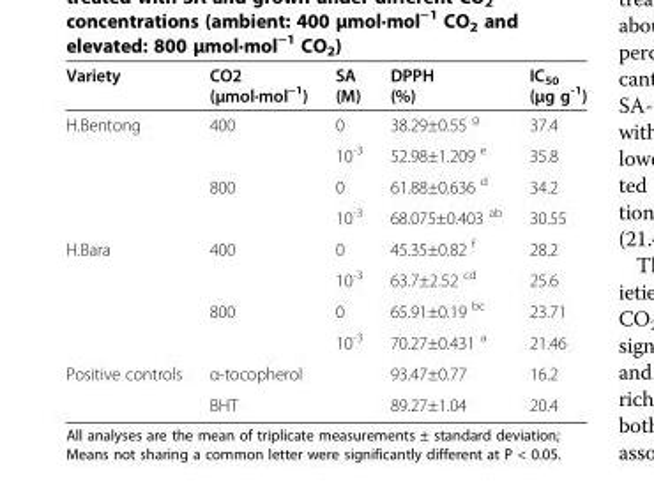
<table><thead><tr><td>Variety</td><td>CO2 (μmol·mol<sup>−1</sup>)</td><td>SA (M)</td><td>DPPH (%)</td><td>IC<sub>50</sub> (μg g<sup>-1</sup>)</td></tr></thead><tbody><tr><td rowspan="4">H.Bentong</td><td>400</td><td>0</td><td>38.29±0.55 <sup>g</sup></td><td>37.4</td></tr><tr><td></td><td>10<sup>-3</sup></td><td>52.98±1.209 <sup>e</sup></td><td>35.8</td></tr><tr><td>800</td><td>0</td><td>61.88±0.636 <sup>d</sup></td><td>34.2</td></tr><tr><td></td><td>10<sup>-3</sup></td><td>68.075±0.403 <sup>ab</sup></td><td>30.55</td></tr><tr><td rowspan="4">H.Bara</td><td>400</td><td>0</td><td>45.35±0.82 <sup>f</sup></td><td>28.2</td></tr><tr><td></td><td>10<sup>-3</sup></td><td>63.7±2.52 <sup>cd</sup></td><td>25.6</td></tr><tr><td>800</td><td>0</td><td>65.91±0.19 <sup>bc</sup></td><td>23.71</td></tr><tr><td></td><td>10<sup>-3</sup></td><td>70.27±0.431 <sup>a</sup></td><td>21.46</td></tr><tr><td rowspan="2">Positive controls</td><td colspan="2">α-tocopherol</td><td>93.47±0.77</td><td>16.2</td></tr><tr><td colspan="2">BHT</td><td>89.27±1.04</td><td>20.4</td></tr></tbody></table>